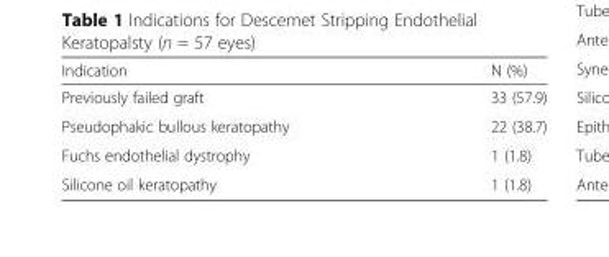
<table><thead><tr><td>Indication</td><td>N (%)</td></tr></thead><tbody><tr><td>Previously failed graft</td><td>33 (57.9)</td></tr><tr><td>Pseudophakic bullous keratopathy</td><td>22 (38.7)</td></tr><tr><td>Fuchs endothelial dystrophy</td><td>1 (1.8)</td></tr><tr><td>Silicone oil keratopathy</td><td>1 (1.8)</td></tr></tbody></table>